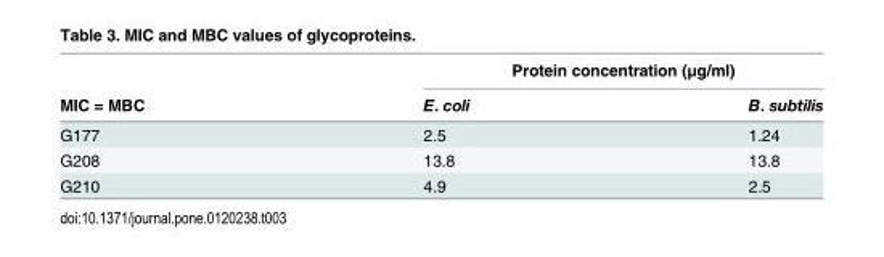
<table><thead><tr><td rowspan="2">MIC = MBC</td><td colspan="2">Protein concentration (μg/ml)</td></tr><tr><td>E. coli</td><td>B. subtilis</td></tr></thead><tbody><tr><td>G177</td><td>2.5</td><td>1.24</td></tr><tr><td>G208</td><td>13.8</td><td>13.8</td></tr><tr><td>G210</td><td>4.9</td><td>2.5</td></tr></tbody></table>